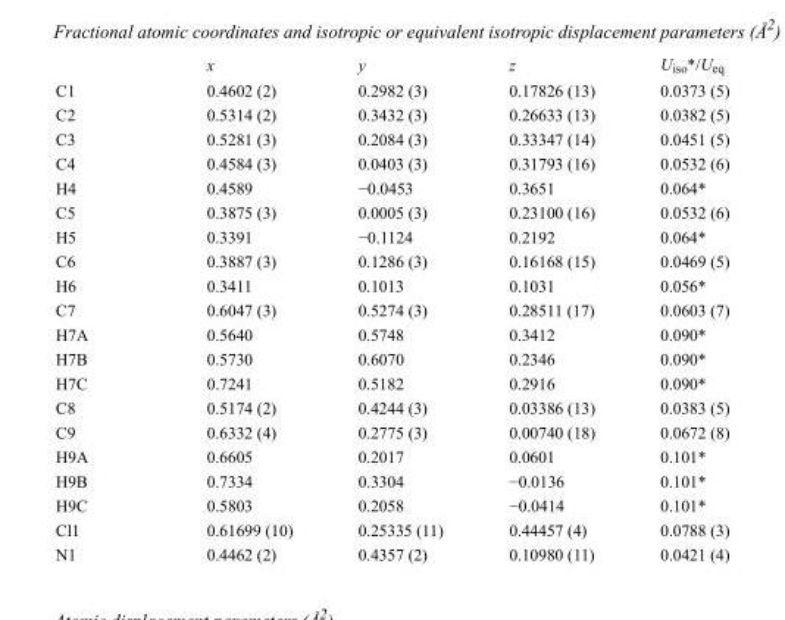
<table><thead><tr><td></td><td>x</td><td>y</td><td>z</td><td>U<sub>iso</sub>*/U<sub>eq</sub></td></tr></thead><tbody><tr><td>C1</td><td>0.4602 (2)</td><td>0.2982 (3)</td><td>0.17826 (13)</td><td>0.0373 (5)</td></tr><tr><td>C2</td><td>0.5314 (2)</td><td>0.3432 (3)</td><td>0.26633 (13)</td><td>0.0382 (5)</td></tr><tr><td>C3</td><td>0.5281 (3)</td><td>0.2084 (3)</td><td>0.33347 (14)</td><td>0.0451 (5)</td></tr><tr><td>C4</td><td>0.4584 (3)</td><td>0.0403 (3)</td><td>0.31793 (16)</td><td>0.0532 (6)</td></tr><tr><td>H4</td><td>0.4589</td><td>−0.0453</td><td>0.3651</td><td>0.064*</td></tr><tr><td>C5</td><td>0.3875 (3)</td><td>0.0005 (3)</td><td>0.23100 (16)</td><td>0.0532 (6)</td></tr><tr><td>H5</td><td>0.3391</td><td>−0.1124</td><td>0.2192</td><td>0.064*</td></tr><tr><td>C6</td><td>0.3887 (3)</td><td>0.1286 (3)</td><td>0.16168 (15)</td><td>0.0469 (5)</td></tr><tr><td>H6</td><td>0.3411</td><td>0.1013</td><td>0.1031</td><td>0.056*</td></tr><tr><td>C7</td><td>0.6047 (3)</td><td>0.5274 (3)</td><td>0.28511 (17)</td><td>0.0603 (7)</td></tr><tr><td>H7A</td><td>0.5640</td><td>0.5748</td><td>0.3412</td><td>0.090*</td></tr><tr><td>H7B</td><td>0.5730</td><td>0.6070</td><td>0.2346</td><td>0.090*</td></tr><tr><td>H7C</td><td>0.7241</td><td>0.5182</td><td>0.2916</td><td>0.090*</td></tr><tr><td>C8</td><td>0.5174 (2)</td><td>0.4244 (3)</td><td>0.03386 (13)</td><td>0.0383 (5)</td></tr><tr><td>C9</td><td>0.6332 (4)</td><td>0.2775 (3)</td><td>0.00740 (18)</td><td>0.0672 (8)</td></tr><tr><td>H9A</td><td>0.6605</td><td>0.2017</td><td>0.0601</td><td>0.101*</td></tr><tr><td>H9B</td><td>0.7334</td><td>0.3304</td><td>−0.0136</td><td>0.101*</td></tr><tr><td>H9C</td><td>0.5803</td><td>0.2058</td><td>−0.0414</td><td>0.101*</td></tr><tr><td>Cl1</td><td>0.61699 (10)</td><td>0.25335 (11)</td><td>0.44457 (4)</td><td>0.0788 (3)</td></tr><tr><td>N1</td><td>0.4462 (2)</td><td>0.4357 (2)</td><td>0.10980 (11)</td><td>0.0421 (4)</td></tr></tbody></table>